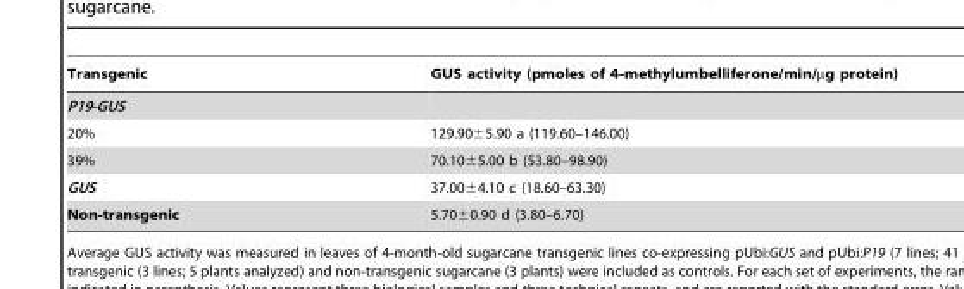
<table><thead><tr><td>Transgenic</td><td>GUS activity (pmoles of 4-methylumbelliferone/min/µg protein)</td></tr></thead><tbody><tr><td colspan="2">P19-GUS</td></tr><tr><td>20%</td><td>129.90±5.90 a (119.60–146.00)</td></tr><tr><td>39%</td><td>70.10±5.00 b (53.80–98.90)</td></tr><tr><td>GUS</td><td>37.00±4.10 c (18.60–63.30)</td></tr><tr><td>Non-transgenic</td><td>5.70±0.90 d (3.80–6.70)</td></tr></tbody></table>